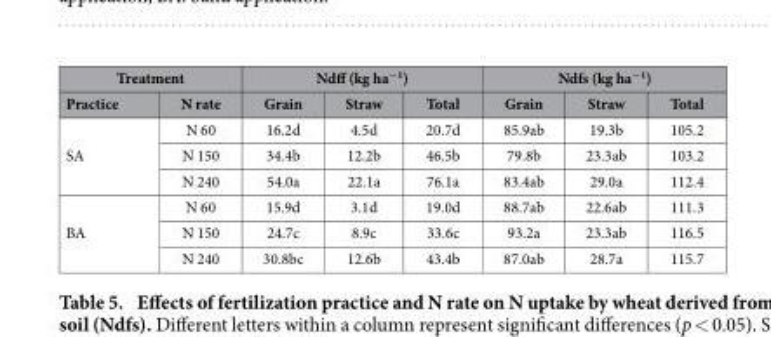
<table><thead><tr><td colspan="2">Treatment</td><td colspan="3">Ndff (kg ha<sup>−1</sup>)</td><td colspan="3">Ndfs (kg ha<sup>−1</sup>)</td></tr><tr><td>Practice</td><td>N rate</td><td>Grain</td><td>Straw</td><td>Total</td><td>Grain</td><td>Straw</td><td>Total</td></tr></thead><tbody><tr><td rowspan="3">SA</td><td>N 60</td><td>16.2d</td><td>4.5d</td><td>20.7d</td><td>85.9ab</td><td>19.3b</td><td>105.2</td></tr><tr><td>N 150</td><td>34.4b</td><td>12.2b</td><td>46.5b</td><td>79.8b</td><td>23.3ab</td><td>103.2</td></tr><tr><td>N 240</td><td>54.0a</td><td>22.1a</td><td>76.1a</td><td>83.4ab</td><td>29.0a</td><td>112.4</td></tr><tr><td rowspan="3">BA</td><td>N 60</td><td>15.9d</td><td>3.1d</td><td>19.0d</td><td>88.7ab</td><td>22.6ab</td><td>111.3</td></tr><tr><td>N 150</td><td>24.7c</td><td>8.9c</td><td>33.6c</td><td>93.2a</td><td>23.3ab</td><td>116.5</td></tr><tr><td>N 240</td><td>30.8bc</td><td>12.6b</td><td>43.4b</td><td>87.0ab</td><td>28.7a</td><td>115.7</td></tr></tbody></table>